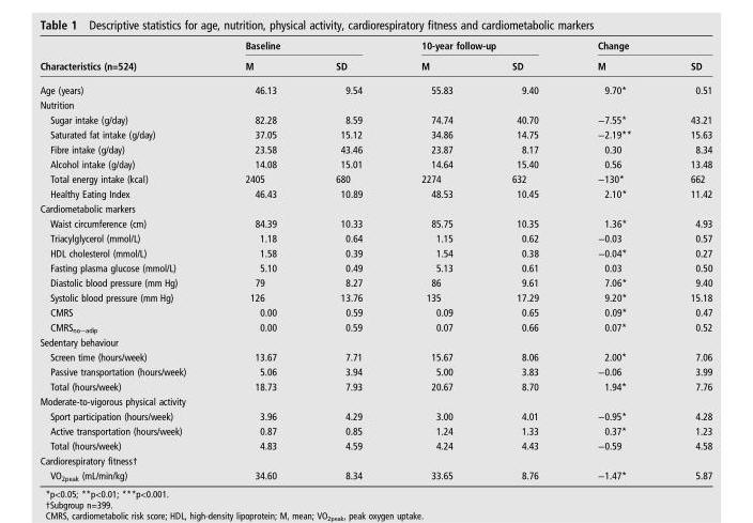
<table><thead><tr><td rowspan="2">Characteristics (n=524)</td><td colspan="2">Baseline</td><td colspan="2">10-year follow-up</td><td colspan="2">Change</td></tr><tr><td>M</td><td>SD</td><td>M</td><td>SD</td><td>M</td><td>SD</td></tr></thead><tbody><tr><td>Age (years)</td><td>46.13</td><td>9.54</td><td>55.83</td><td>9.40</td><td>9.70*</td><td>0.51</td></tr><tr><td colspan="7">Nutrition</td></tr><tr><td>Sugar intake (g/day)</td><td>82.28</td><td>8.59</td><td>74.74</td><td>40.70</td><td>−7.55*</td><td>43.21</td></tr><tr><td>Saturated fat intake (g/day)</td><td>37.05</td><td>15.12</td><td>34.86</td><td>14.75</td><td>−2.19**</td><td>15.63</td></tr><tr><td>Fibre intake (g/day)</td><td>23.58</td><td>43.46</td><td>23.87</td><td>8.17</td><td>0.30</td><td>8.34</td></tr><tr><td>Alcohol intake (g/day)</td><td>14.08</td><td>15.01</td><td>14.64</td><td>15.40</td><td>0.56</td><td>13.48</td></tr><tr><td>Total energy intake (kcal)</td><td>2405</td><td>680</td><td>2274</td><td>632</td><td>−130*</td><td>662</td></tr><tr><td>Healthy Eating Index</td><td>46.43</td><td>10.89</td><td>48.53</td><td>10.45</td><td>2.10*</td><td>11.42</td></tr><tr><td colspan="7">Cardiometabolic markers</td></tr><tr><td>Waist circumference (cm)</td><td>84.39</td><td>10.33</td><td>85.75</td><td>10.35</td><td>1.36*</td><td>4.93</td></tr><tr><td>Triacylglycerol (mmol/L)</td><td>1.18</td><td>0.64</td><td>1.15</td><td>0.62</td><td>−0.03</td><td>0.57</td></tr><tr><td>HDL cholesterol (mmol/L)</td><td>1.58</td><td>0.39</td><td>1.54</td><td>0.38</td><td>−0.04*</td><td>0.27</td></tr><tr><td>Fasting plasma glucose (mmol/L)</td><td>5.10</td><td>0.49</td><td>5.13</td><td>0.61</td><td>0.03</td><td>0.50</td></tr><tr><td>Diastolic blood pressure (mm Hg)</td><td>79</td><td>8.27</td><td>86</td><td>9.61</td><td>7.06*</td><td>9.40</td></tr><tr><td>Systolic blood pressure (mm Hg)</td><td>126</td><td>13.76</td><td>135</td><td>17.29</td><td>9.20*</td><td>15.18</td></tr><tr><td>CMRS</td><td>0.00</td><td>0.59</td><td>0.09</td><td>0.65</td><td>0.09*</td><td>0.47</td></tr><tr><td>CMRS<sub>no−adip</sub></td><td>0.00</td><td>0.59</td><td>0.07</td><td>0.66</td><td>0.07*</td><td>0.52</td></tr><tr><td colspan="7">Sedentary behaviour</td></tr><tr><td>Screen time (hours/week)</td><td>13.67</td><td>7.71</td><td>15.67</td><td>8.06</td><td>2.00*</td><td>7.06</td></tr><tr><td>Passive transportation (hours/week)</td><td>5.06</td><td>3.94</td><td>5.00</td><td>3.83</td><td>−0.06</td><td>3.99</td></tr><tr><td>Total (hours/week)</td><td>18.73</td><td>7.93</td><td>20.67</td><td>8.70</td><td>1.94*</td><td>7.76</td></tr><tr><td colspan="7">Moderate-to-vigorous physical activity</td></tr><tr><td>Sport participation (hours/week)</td><td>3.96</td><td>4.29</td><td>3.00</td><td>4.01</td><td>−0.95*</td><td>4.28</td></tr><tr><td>Active transportation (hours/week)</td><td>0.87</td><td>0.85</td><td>1.24</td><td>1.33</td><td>0.37*</td><td>1.23</td></tr><tr><td>Total (hours/week)</td><td>4.83</td><td>4.59</td><td>4.24</td><td>4.43</td><td>−0.59</td><td>4.58</td></tr><tr><td colspan="7">Cardiorespiratory fitness†</td></tr><tr><td>VO<sub>2peak</sub> (mL/min/kg)</td><td>34.60</td><td>8.34</td><td>33.65</td><td>8.76</td><td>−1.47*</td><td>5.87</td></tr></tbody></table>